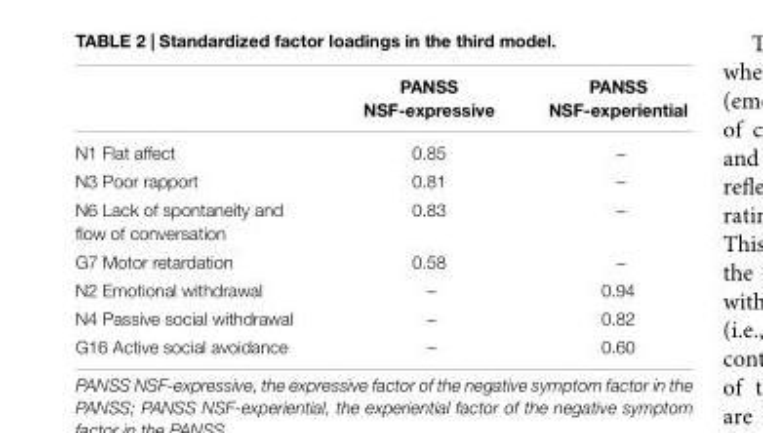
<table><thead><tr><td></td><td>PANSS NSF-expressive</td><td>PANSS NSF-experiential</td></tr></thead><tbody><tr><td>N1 Flat affect</td><td>0.85</td><td>–</td></tr><tr><td>N3 Poor rapport</td><td>0.81</td><td>–</td></tr><tr><td>N6 Lack of spontaneity and flow of conversation</td><td>0.83</td><td>–</td></tr><tr><td>G7 Motor retardation</td><td>0.58</td><td>–</td></tr><tr><td>N2 Emotional withdrawal</td><td>–</td><td>0.94</td></tr><tr><td>N4 Passive social withdrawal</td><td>–</td><td>0.82</td></tr><tr><td>G16 Active social avoidance</td><td>–</td><td>0.60</td></tr></tbody></table>